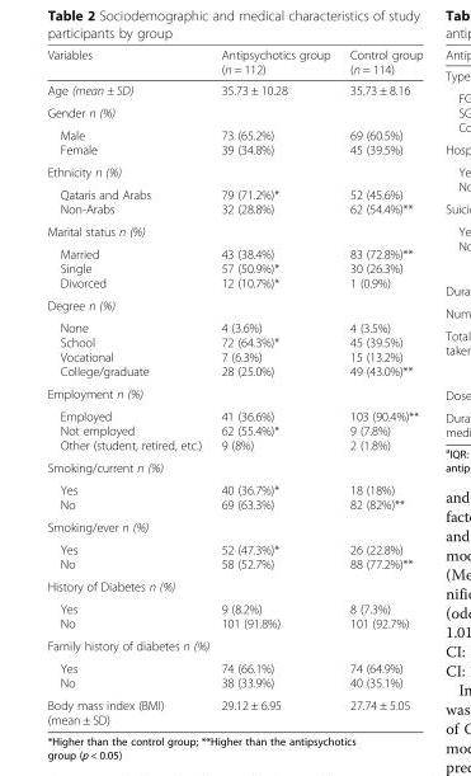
<table><thead><tr><td>Variables</td><td>Antipsychotics group (n = 112)</td><td>Control group (n = 114)</td></tr></thead><tbody><tr><td>Age (mean ± SD)</td><td>35.73 ± 10.28</td><td>35.73 ± 8.16</td></tr><tr><td colspan="3">Gender n (%)</td></tr><tr><td>Male Female</td><td>73 (65.2%) 39 (34.8%)</td><td>69 (60.5%) 45 (39.5%)</td></tr><tr><td colspan="3">Ethnicity n (%)</td></tr><tr><td>Qataris and Arabs Non-Arabs</td><td>79 (71.2%)* 32 (28.8%)</td><td>52 (45.6%) 62 (54.4%)**</td></tr><tr><td colspan="3">Marital status n (%)</td></tr><tr><td>Married Single Divorced</td><td>43 (38.4%) 57 (50.9%)* 12 (10.7%)*</td><td>83 (72.8%)** 30 (26.3%) 1 (0.9%)</td></tr><tr><td colspan="3">Degree n (%)</td></tr><tr><td>None School Vocational College/graduate</td><td>4 (3.6%) 72 (64.3%)* 7 (6.3%) 28 (25.0%)</td><td>4 (3.5%) 45 (39.5%) 15 (13.2%) 49 (43.0%)**</td></tr><tr><td colspan="3">Employment n (%)</td></tr><tr><td>Employed Not employed Other (student, retired, etc.)</td><td>41 (36.6%) 62 (55.4%)* 9 (8%)</td><td>103 (90.4%)** 9 (7.8%) 2 (1.8%)</td></tr><tr><td colspan="3">Smoking/current n (%)</td></tr><tr><td>Yes No</td><td>40 (36.7%)* 69 (63.3%)</td><td>18 (18%) 82 (82%)**</td></tr><tr><td colspan="3">Smoking/ever n (%)</td></tr><tr><td>Yes No</td><td>52 (47.3%)* 58 (52.7%)</td><td>26 (22.8%) 88 (77.2%)**</td></tr><tr><td colspan="3">History of Diabetes n (%)</td></tr><tr><td>Yes No</td><td>9 (8.2%) 101 (91.8%)</td><td>8 (7.3%) 101 (92.7%)</td></tr><tr><td colspan="3">Family history of diabetes n (%)</td></tr><tr><td>Yes No</td><td>74 (66.1%) 38 (33.9%)</td><td>74 (64.9%) 40 (35.1%)</td></tr><tr><td>Body mass index (BMI) (mean ± SD)</td><td>29.12 ± 6.95</td><td>27.74 ± 5.05</td></tr></tbody></table>